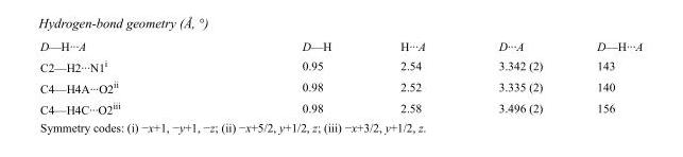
<table><tbody><tr><td>D—H···A</td><td>D—H</td><td>H···A</td><td>D···A</td><td>D—H···A</td></tr><tr><td>C2—H2···N1<sup>i</sup></td><td>0.95</td><td>2.54</td><td>3.342 (2)</td><td>143</td></tr><tr><td>C4—H4A···O2<sup>ii</sup></td><td>0.98</td><td>2.52</td><td>3.335 (2)</td><td>140</td></tr><tr><td>C4—H4C···O2<sup>iii</sup></td><td>0.98</td><td>2.58</td><td>3.496 (2)</td><td>156</td></tr></tbody></table>